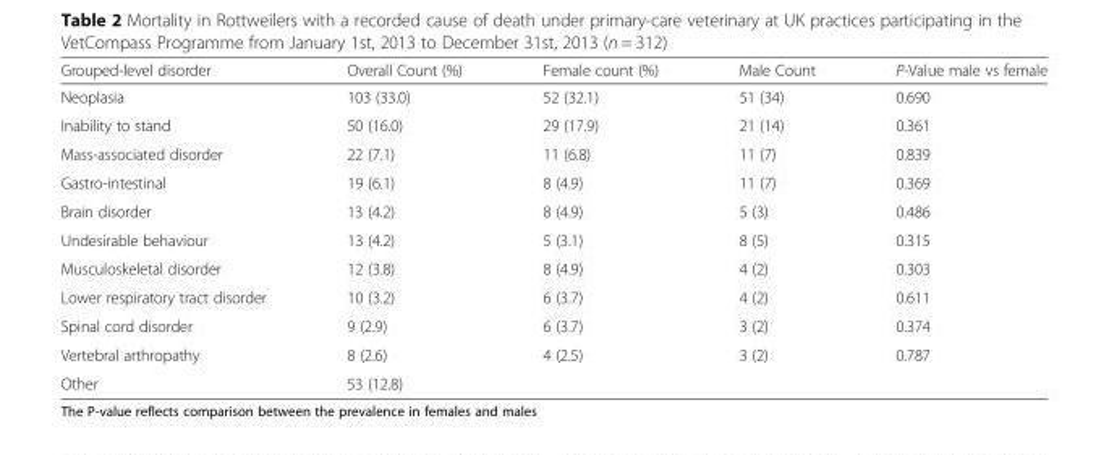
<table><thead><tr><td>Grouped-level disorder</td><td>Overall Count (%)</td><td>Female count (%)</td><td>Male Count</td><td>P-Value male vs female</td></tr></thead><tbody><tr><td>Neoplasia</td><td>103 (33.0)</td><td>52 (32.1)</td><td>51 (34)</td><td>0.690</td></tr><tr><td>Inability to stand</td><td>50 (16.0)</td><td>29 (17.9)</td><td>21 (14)</td><td>0.361</td></tr><tr><td>Mass-associated disorder</td><td>22 (7.1)</td><td>11 (6.8)</td><td>11 (7)</td><td>0.839</td></tr><tr><td>Gastro-intestinal</td><td>19 (6.1)</td><td>8 (4.9)</td><td>11 (7)</td><td>0.369</td></tr><tr><td>Brain disorder</td><td>13 (4.2)</td><td>8 (4.9)</td><td>5 (3)</td><td>0.486</td></tr><tr><td>Undesirable behaviour</td><td>13 (4.2)</td><td>5 (3.1)</td><td>8 (5)</td><td>0.315</td></tr><tr><td>Musculoskeletal disorder</td><td>12 (3.8)</td><td>8 (4.9)</td><td>4 (2)</td><td>0.303</td></tr><tr><td>Lower respiratory tract disorder</td><td>10 (3.2)</td><td>6 (3.7)</td><td>4 (2)</td><td>0.611</td></tr><tr><td>Spinal cord disorder</td><td>9 (2.9)</td><td>6 (3.7)</td><td>3 (2)</td><td>0.374</td></tr><tr><td>Vertebral arthropathy</td><td>8 (2.6)</td><td>4 (2.5)</td><td>3 (2)</td><td>0.787</td></tr><tr><td>Other</td><td>53 (12.8)</td><td></td><td></td><td></td></tr></tbody></table>